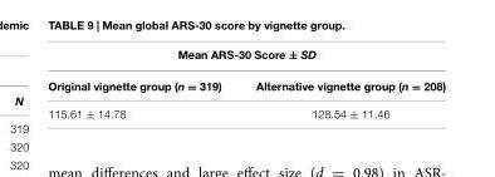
<table><thead><tr><td colspan="2">Mean ARS-30 Score ± SD</td></tr><tr><td>Original vignette group (n = 319)</td><td>Alternative vignette group (n = 208)</td></tr></thead><tbody><tr><td>115.61 ± 14.78</td><td>128.54 ± 11.46</td></tr></tbody></table>